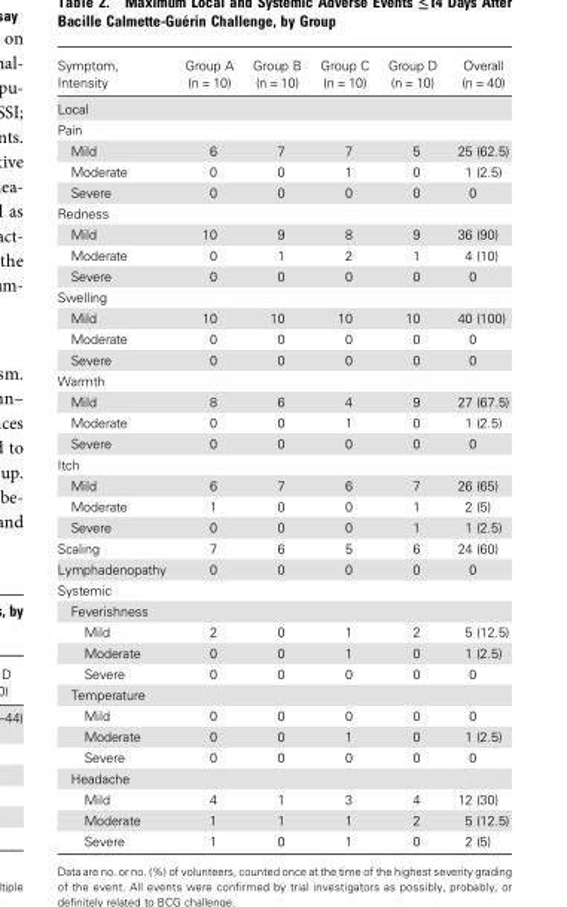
<table><thead><tr><td>Symptom, Intensity</td><td>Group A (n = 10)</td><td>Group B (n = 10)</td><td>Group C (n = 10)</td><td>Group D (n = 10)</td><td>Overall (n = 40)</td></tr></thead><tbody><tr><td colspan="6">Local</td></tr><tr><td colspan="6">Pain</td></tr><tr><td>Mild</td><td>6</td><td>7</td><td>7</td><td>5</td><td>25 (62.5)</td></tr><tr><td>Moderate</td><td>0</td><td>0</td><td>1</td><td>0</td><td>1 (2.5)</td></tr><tr><td>Severe</td><td>0</td><td>0</td><td>0</td><td>0</td><td>0</td></tr><tr><td colspan="6">Redness</td></tr><tr><td>Mild</td><td>10</td><td>9</td><td>8</td><td>9</td><td>36 (90)</td></tr><tr><td>Moderate</td><td>0</td><td>1</td><td>2</td><td>1</td><td>4 (10)</td></tr><tr><td>Severe</td><td>0</td><td>0</td><td>0</td><td>0</td><td>0</td></tr><tr><td colspan="6">Swelling</td></tr><tr><td>Mild</td><td>10</td><td>10</td><td>10</td><td>10</td><td>40 (100)</td></tr><tr><td>Moderate</td><td>0</td><td>0</td><td>0</td><td>0</td><td>0</td></tr><tr><td>Severe</td><td>0</td><td>0</td><td>0</td><td>0</td><td>0</td></tr><tr><td colspan="6">Warmth</td></tr><tr><td>Mild</td><td>8</td><td>6</td><td>4</td><td>9</td><td>27 (67.5)</td></tr><tr><td>Moderate</td><td>0</td><td>0</td><td>1</td><td>0</td><td>1 (2.5)</td></tr><tr><td>Severe</td><td>0</td><td>0</td><td>0</td><td>0</td><td>0</td></tr><tr><td colspan="6">Itch</td></tr><tr><td>Mild</td><td>6</td><td>7</td><td>6</td><td>7</td><td>26 (65)</td></tr><tr><td>Moderate</td><td>1</td><td>0</td><td>0</td><td>1</td><td>2 (5)</td></tr><tr><td>Severe</td><td>0</td><td>0</td><td>0</td><td>1</td><td>1 (2.5)</td></tr><tr><td>Scaling</td><td>7</td><td>6</td><td>5</td><td>6</td><td>24 (60)</td></tr><tr><td>Lymphadenopathy</td><td>0</td><td>0</td><td>0</td><td>0</td><td>0</td></tr><tr><td colspan="6">Systemic</td></tr><tr><td colspan="6">Feverishness</td></tr><tr><td>Mild</td><td>2</td><td>0</td><td>1</td><td>2</td><td>5 (12.5)</td></tr><tr><td>Moderate</td><td>0</td><td>0</td><td>1</td><td>0</td><td>1 (2.5)</td></tr><tr><td>Severe</td><td>0</td><td>0</td><td>0</td><td>0</td><td>0</td></tr><tr><td colspan="6">Temperature</td></tr><tr><td>Mild</td><td>0</td><td>0</td><td>0</td><td>0</td><td>0</td></tr><tr><td>Moderate</td><td>0</td><td>0</td><td>1</td><td>0</td><td>1 (2.5)</td></tr><tr><td>Severe</td><td>0</td><td>0</td><td>0</td><td>0</td><td>0</td></tr><tr><td colspan="6">Headache</td></tr><tr><td>Mild</td><td>4</td><td>1</td><td>3</td><td>4</td><td>12 (30)</td></tr><tr><td>Moderate</td><td>1</td><td>1</td><td>1</td><td>2</td><td>5 (12.5)</td></tr><tr><td>Severe</td><td>1</td><td>0</td><td>1</td><td>0</td><td>2 (5)</td></tr></tbody></table>